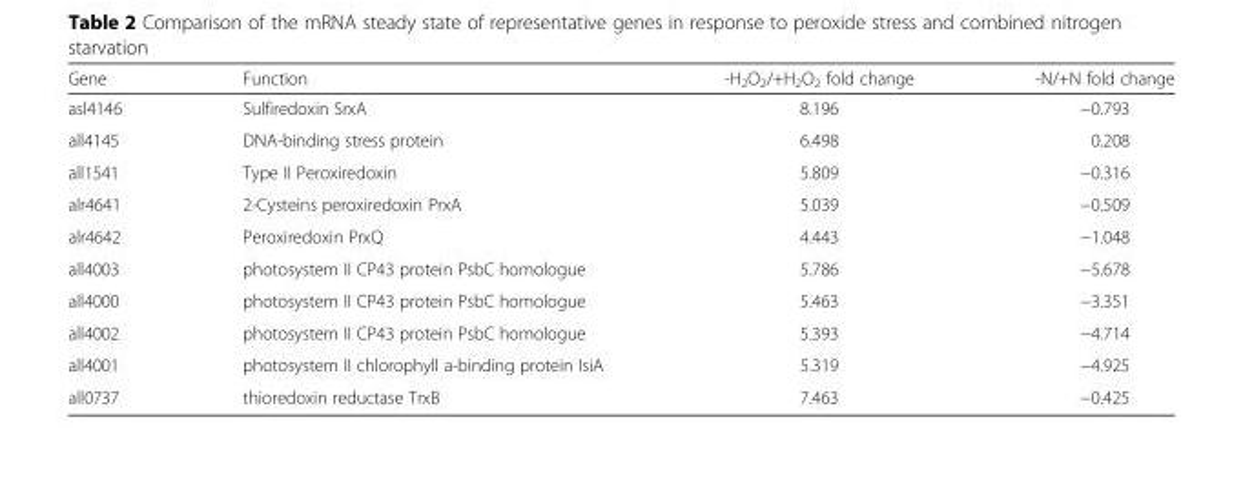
<table><thead><tr><td>Gene</td><td>Function</td><td>-H<sub>2</sub>O<sub>2</sub>/+H<sub>2</sub>O<sub>2</sub> fold change</td><td>-N/+N fold change</td></tr></thead><tbody><tr><td>asl4146</td><td>Sulfiredoxin SrxA</td><td>8.196</td><td>−0.793</td></tr><tr><td>all4145</td><td>DNA-binding stress protein</td><td>6.498</td><td>0.208</td></tr><tr><td>all1541</td><td>Type II Peroxiredoxin</td><td>5.809</td><td>−0.316</td></tr><tr><td>alr4641</td><td>2-Cysteins peroxiredoxin PrxA</td><td>5.039</td><td>−0.509</td></tr><tr><td>alr4642</td><td>Peroxiredoxin PrxQ</td><td>4.443</td><td>−1.048</td></tr><tr><td>all4003</td><td>photosystem II CP43 protein PsbC homologue</td><td>5.786</td><td>−5.678</td></tr><tr><td>all4000</td><td>photosystem II CP43 protein PsbC homologue</td><td>5.463</td><td>−3.351</td></tr><tr><td>all4002</td><td>photosystem II CP43 protein PsbC homologue</td><td>5.393</td><td>−4.714</td></tr><tr><td>all4001</td><td>photosystem II chlorophyll a-binding protein IsiA</td><td>5.319</td><td>−4.925</td></tr><tr><td>all0737</td><td>thioredoxin reductase TrxB</td><td>7.463</td><td>−0.425</td></tr></tbody></table>